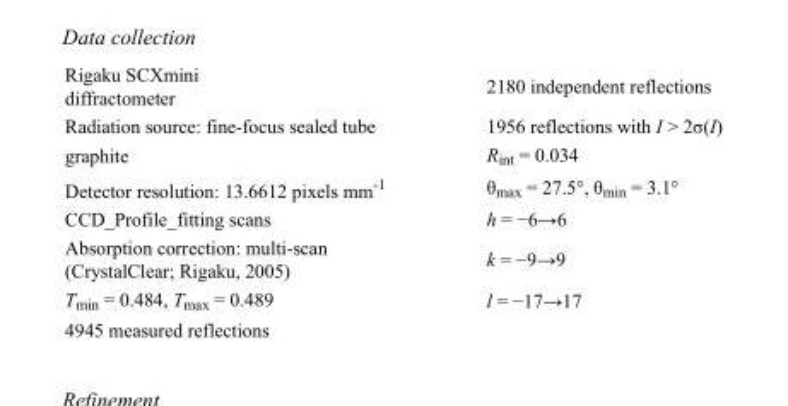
<table><tbody><tr><td>Rigaku SCXmini diffractometer</td><td>2180 independent reflections</td></tr><tr><td>Radiation source: fine-focus sealed tube</td><td>1956 reflections with I &gt; 2σ(I)</td></tr><tr><td>graphite</td><td>R<sub>int</sub> = 0.034</td></tr><tr><td>Detector resolution: 13.6612 pixels mm<sup>-1</sup></td><td>θ<sub>max</sub> = 27.5°, θ<sub>min</sub> = 3.1°</td></tr><tr><td>CCD_Profile_fitting scans</td><td>h = −6→6</td></tr><tr><td>Absorption correction: multi-scan (CrystalClear; Rigaku, 2005)</td><td>k = −9→9</td></tr><tr><td>T<sub>min</sub> = 0.484, T<sub>max</sub> = 0.489</td><td>l = −17→17</td></tr><tr><td>4945 measured reflections</td><td></td></tr></tbody></table>